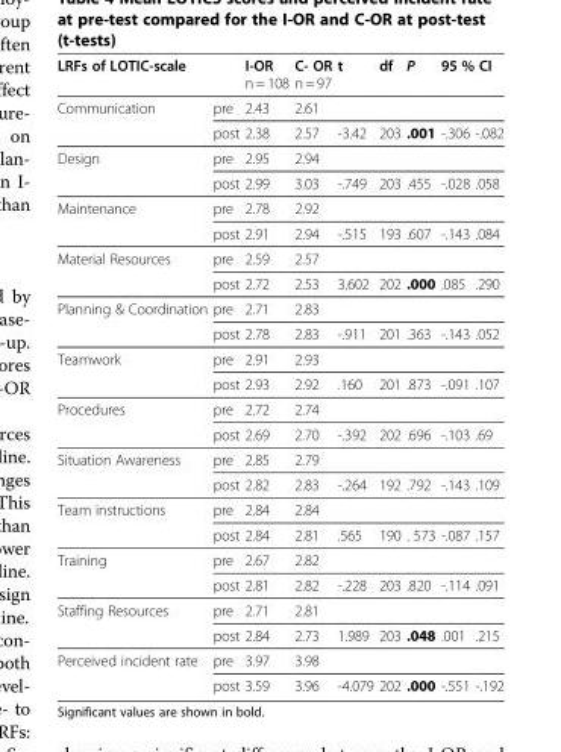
<table><thead><tr><td rowspan="2">LRFs of LOTIC-scale</td><td rowspan="2"></td><td rowspan="2">I-OR n = 108</td><td rowspan="2">C- OR n = 97</td><td rowspan="2">t</td><td rowspan="2">df</td><td rowspan="2">P</td><td colspan="2">95 % CI</td></tr><tr><td></td><td></td></tr></thead><tbody><tr><td rowspan="2">Communication</td><td>pre</td><td>2.43</td><td>2.61</td><td></td><td></td><td></td><td></td><td></td></tr><tr><td>post</td><td>2.38</td><td>2.57</td><td>-3.42</td><td>203</td><td>.001</td><td>-.306</td><td>-.082</td></tr><tr><td rowspan="2">Design</td><td>pre</td><td>2.95</td><td>2.94</td><td></td><td></td><td></td><td></td><td></td></tr><tr><td>post</td><td>2.99</td><td>3.03</td><td>-.749</td><td>203</td><td>.455</td><td>-.028</td><td>.058</td></tr><tr><td rowspan="2">Maintenance</td><td>pre</td><td>2.78</td><td>2.92</td><td></td><td></td><td></td><td></td><td></td></tr><tr><td>post</td><td>2.91</td><td>2.94</td><td>-.515</td><td>193</td><td>.607</td><td>-.143</td><td>.084</td></tr><tr><td rowspan="2">Material Resources</td><td>pre</td><td>2.59</td><td>2.57</td><td></td><td></td><td></td><td></td><td></td></tr><tr><td>post</td><td>2.72</td><td>2.53</td><td>3.602</td><td>202</td><td>.000</td><td>.085</td><td>.290</td></tr><tr><td rowspan="2">Planning &amp; Coordination</td><td>pre</td><td>2.71</td><td>2.83</td><td></td><td></td><td></td><td></td><td></td></tr><tr><td>post</td><td>2.78</td><td>2.83</td><td>-.911</td><td>201</td><td>.363</td><td>-.143</td><td>.052</td></tr><tr><td rowspan="2">Teamwork</td><td>pre</td><td>2.91</td><td>2.93</td><td></td><td></td><td></td><td></td><td></td></tr><tr><td>post</td><td>2.93</td><td>2.92</td><td>.160</td><td>201</td><td>.873</td><td>-.091</td><td>.107</td></tr><tr><td rowspan="2">Procedures</td><td>pre</td><td>2.72</td><td>2.74</td><td></td><td></td><td></td><td></td><td></td></tr><tr><td>post</td><td>2.69</td><td>2.70</td><td>-.392</td><td>202</td><td>.696</td><td>-.103</td><td>.69</td></tr><tr><td rowspan="2">Situation Awareness</td><td>pre</td><td>2.85</td><td>2.79</td><td></td><td></td><td></td><td></td><td></td></tr><tr><td>post</td><td>2.82</td><td>2.83</td><td>-.264</td><td>192</td><td>.792</td><td>-.143</td><td>.109</td></tr><tr><td rowspan="2">Team instructions</td><td>pre</td><td>2.84</td><td>2.84</td><td></td><td></td><td></td><td></td><td></td></tr><tr><td>post</td><td>2.84</td><td>2.81</td><td>.565</td><td>190</td><td>. 573</td><td>-.087</td><td>.157</td></tr><tr><td rowspan="2">Training</td><td>pre</td><td>2.67</td><td>2.82</td><td></td><td></td><td></td><td></td><td></td></tr><tr><td>post</td><td>2.81</td><td>2.82</td><td>-.228</td><td>203</td><td>.820</td><td>-.114</td><td>.091</td></tr><tr><td rowspan="2">Staffing Resources</td><td>pre</td><td>2.71</td><td>2.81</td><td></td><td></td><td></td><td></td><td></td></tr><tr><td>post</td><td>2.84</td><td>2.73</td><td>1.989</td><td>203</td><td>.048</td><td>.001</td><td>.215</td></tr><tr><td rowspan="2">Perceived incident rate</td><td>pre</td><td>3.97</td><td>3.98</td><td></td><td></td><td></td><td></td><td></td></tr><tr><td>post</td><td>3.59</td><td>3.96</td><td>-4.079</td><td>202</td><td>.000</td><td>-.551</td><td>-.192</td></tr></tbody></table>